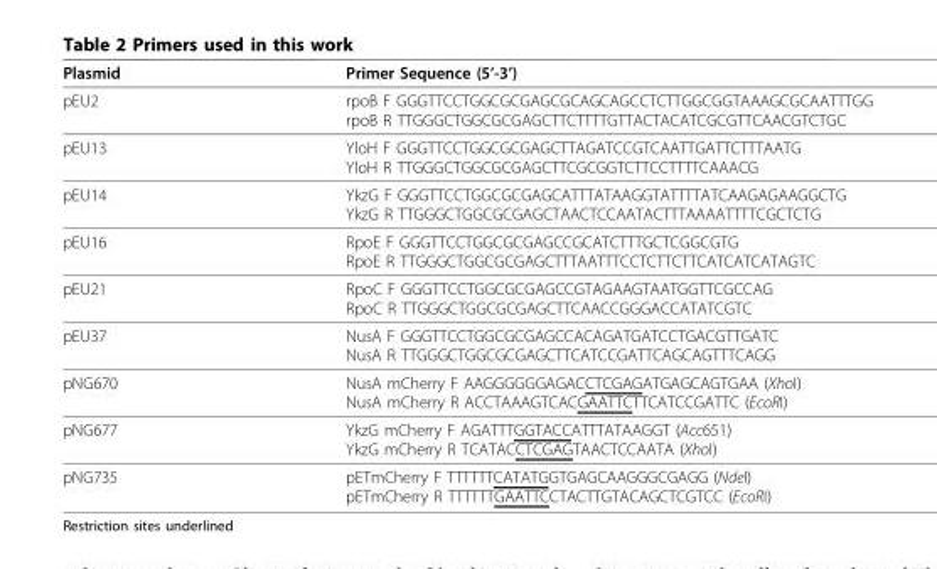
<table><thead><tr><td>Plasmid</td><td>Primer Sequence (5’-3’)</td></tr></thead><tbody><tr><td>pEU2</td><td>rpoB F GGGTTCCTGGCGCGAGCGCAGCAGCCTCTTGGCGGTAAAGCGCAATTTGG rpoB R TTGGGCTGGCGCGAGCTTCTTTTGTTACTACATCGCGTTCAACGTCTGC</td></tr><tr><td>pEU13</td><td>YloH F GGGTTCCTGGCGCGAGCTTAGATCCGTCAATTGATTCTTTAATG YloH R TTGGGCTGGCGCGAGCTTCGCGGTCTTCCTTTTCAAACG</td></tr><tr><td>pEU14</td><td>YkzG F GGGTTCCTGGCGCGAGCATTTATAAGGTATTTTATCAAGAGAAGGCTG YkzG R TTGGGCTGGCGCGAGCTAACTCCAATACTTTAAAATTTTCGCTCTG</td></tr><tr><td>pEU16</td><td>RpoE F GGGTTCCTGGCGCGAGCCGCATCTTTGCTCGGCGTG RpoE R TTGGGCTGGCGCGAGCTTTAATTTCCTCTTCTTCATCATCATAGTC</td></tr><tr><td>pEU21</td><td>RpoC F GGGTTCCTGGCGCGAGCCGTAGAAGTAATGGTTCGCCAG RpoC R TTGGGCTGGCGCGAGCTTCAACCGGGACCATATCGTC</td></tr><tr><td>pEU37</td><td>NusA F GGGTTCCTGGCGCGAGCCACAGATGATCCTGACGTTGATC NusA R TTGGGCTGGCGCGAGCTTCATCCGATTCAGCAGTTTCAGG</td></tr><tr><td>pNG670</td><td>NusA mCherry F AAGGGGGGAGACCTCGAGATGAGCAGTGAA (XhoI) NusA mCherry R ACCTAAAGTCACGAATTCTTCATCCGATTC (EcoRI)</td></tr><tr><td>pNG677</td><td>YkzG mCherry F AGATTTGGTACCATTTATAAGGT (Acc651) YkzG mCherry R TCATACCTCGAGTAACTCCAATA (XhoI)</td></tr><tr><td>pNG735</td><td>pETmCherry F TTTTTTCATATGGTGAGCAAGGGCGAGG (NdeI) pETmCherry R TTTTTTGAATTCCTACTTGTACAGCTCGTCC (EcoRI)</td></tr></tbody></table>